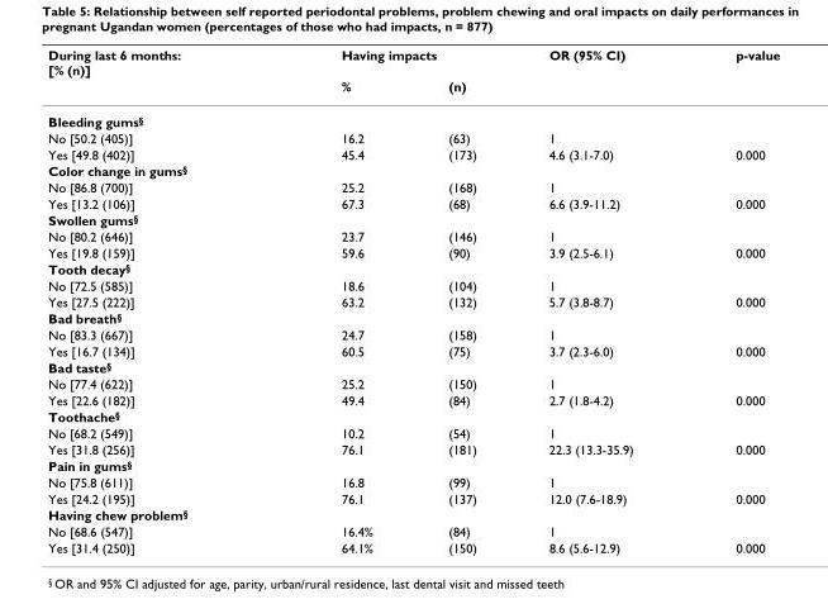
<table><thead><tr><td rowspan="2">During last 6 months: [% (n)]</td><td colspan="2">Having impacts</td><td rowspan="2">OR (95% CI)</td><td rowspan="2">p-value</td></tr><tr><td>%</td><td>(n)</td></tr></thead><tbody><tr><td colspan="5">Bleeding gums<sup>§</sup></td></tr><tr><td>No [50.2 (405)]</td><td>16.2</td><td>(63)</td><td>1</td><td></td></tr><tr><td>Yes [49.8 (402)]</td><td>45.4</td><td>(173)</td><td>4.6 (3.1-7.0)</td><td>0.000</td></tr><tr><td colspan="5">Color change in gums<sup>§</sup></td></tr><tr><td>No [86.8 (700)]</td><td>25.2</td><td>(168)</td><td>1</td><td></td></tr><tr><td>Yes [13.2 (106)]</td><td>67.3</td><td>(68)</td><td>6.6 (3.9-11.2)</td><td>0.000</td></tr><tr><td colspan="5">Swollen gums<sup>§</sup></td></tr><tr><td>No [80.2 (646)]</td><td>23.7</td><td>(146)</td><td>1</td><td></td></tr><tr><td>Yes [19.8 (159)]</td><td>59.6</td><td>(90)</td><td>3.9 (2.5-6.1)</td><td>0.000</td></tr><tr><td colspan="5">Tooth decay<sup>§</sup></td></tr><tr><td>No [72.5 (585)]</td><td>18.6</td><td>(104)</td><td>1</td><td></td></tr><tr><td>Yes [27.5 (222)]</td><td>63.2</td><td>(132)</td><td>5.7 (3.8-8.7)</td><td>0.000</td></tr><tr><td colspan="5">Bad breath<sup>§</sup></td></tr><tr><td>No [83.3 (667)]</td><td>24.7</td><td>(158)</td><td>1</td><td></td></tr><tr><td>Yes [16.7 (134)]</td><td>60.5</td><td>(75)</td><td>3.7 (2.3-6.0)</td><td>0.000</td></tr><tr><td colspan="5">Bad taste<sup>§</sup></td></tr><tr><td>No [77.4 (622)]</td><td>25.2</td><td>(150)</td><td>1</td><td></td></tr><tr><td>Yes [22.6 (182)]</td><td>49.4</td><td>(84)</td><td>2.7 (1.8-4.2)</td><td>0.000</td></tr><tr><td colspan="5">Toothache<sup>§</sup></td></tr><tr><td>No [68.2 (549)]</td><td>10.2</td><td>(54)</td><td>1</td><td></td></tr><tr><td>Yes [31.8 (256)]</td><td>76.1</td><td>(181)</td><td>22.3 (13.3-35.9)</td><td>0.000</td></tr><tr><td colspan="5">Pain in gums<sup>§</sup></td></tr><tr><td>No [75.8 (611)]</td><td>16.8</td><td>(99)</td><td>1</td><td></td></tr><tr><td>Yes [24.2 (195)]</td><td>76.1</td><td>(137)</td><td>12.0 (7.6-18.9)</td><td>0.000</td></tr><tr><td colspan="5">Having chew problem<sup>§</sup></td></tr><tr><td>No [68.6 (547)]</td><td>16.4%</td><td>(84)</td><td>1</td><td></td></tr><tr><td>Yes [31.4 (250)]</td><td>64.1%</td><td>(150)</td><td>8.6 (5.6-12.9)</td><td>0.000</td></tr></tbody></table>